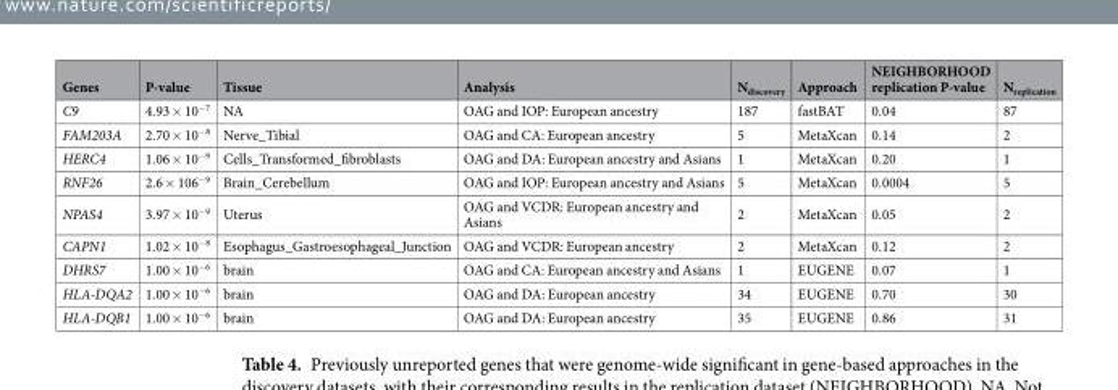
<table><thead><tr><td>Genes</td><td>P-value</td><td>Tissue</td><td>Analysis</td><td>N<sub>discovery</sub></td><td>Approach</td><td>NEIGHBORHOOD replication P-value</td><td>N<sub>replication</sub></td></tr></thead><tbody><tr><td>C9</td><td>4.93 × 10<sup>−7</sup></td><td>NA</td><td>OAG and IOP: European ancestry</td><td>187</td><td>fastBAT</td><td>0.04</td><td>87</td></tr><tr><td>FAM203A</td><td>2.70 × 10<sup>−8</sup></td><td>Nerve_Tibial</td><td>OAG and CA: European ancestry</td><td>5</td><td>MetaXcan</td><td>0.14</td><td>2</td></tr><tr><td>HERC4</td><td>1.06 × 10<sup>−9</sup></td><td>Cells_Transformed_fibroblasts</td><td>OAG and DA: European ancestry and Asians</td><td>1</td><td>MetaXcan</td><td>0.20</td><td>1</td></tr><tr><td>RNF26</td><td>2.6 × 106<sup>−9</sup></td><td>Brain_Cerebellum</td><td>OAG and IOP: European ancestry and Asians</td><td>5</td><td>MetaXcan</td><td>0.0004</td><td>5</td></tr><tr><td>NPAS4</td><td>3.97 × 10<sup>−9</sup></td><td>Uterus</td><td>OAG and VCDR: European ancestry and Asians</td><td>2</td><td>MetaXcan</td><td>0.05</td><td>2</td></tr><tr><td>CAPN1</td><td>1.02 × 10<sup>−8</sup></td><td>Esophagus_Gastroesophageal_Junction</td><td>OAG and VCDR: European ancestry</td><td>2</td><td>MetaXcan</td><td>0.12</td><td>2</td></tr><tr><td>DHRS7</td><td>1.00 × 10<sup>−6</sup></td><td>brain</td><td>OAG and CA: European ancestry and Asians</td><td>1</td><td>EUGENE</td><td>0.07</td><td>1</td></tr><tr><td>HLA-DQA2</td><td>1.00 × 10<sup>−6</sup></td><td>brain</td><td>OAG and DA: European ancestry</td><td>34</td><td>EUGENE</td><td>0.70</td><td>30</td></tr><tr><td>HLA-DQB1</td><td>1.00 × 10<sup>−6</sup></td><td>brain</td><td>OAG and DA: European ancestry</td><td>35</td><td>EUGENE</td><td>0.86</td><td>31</td></tr></tbody></table>